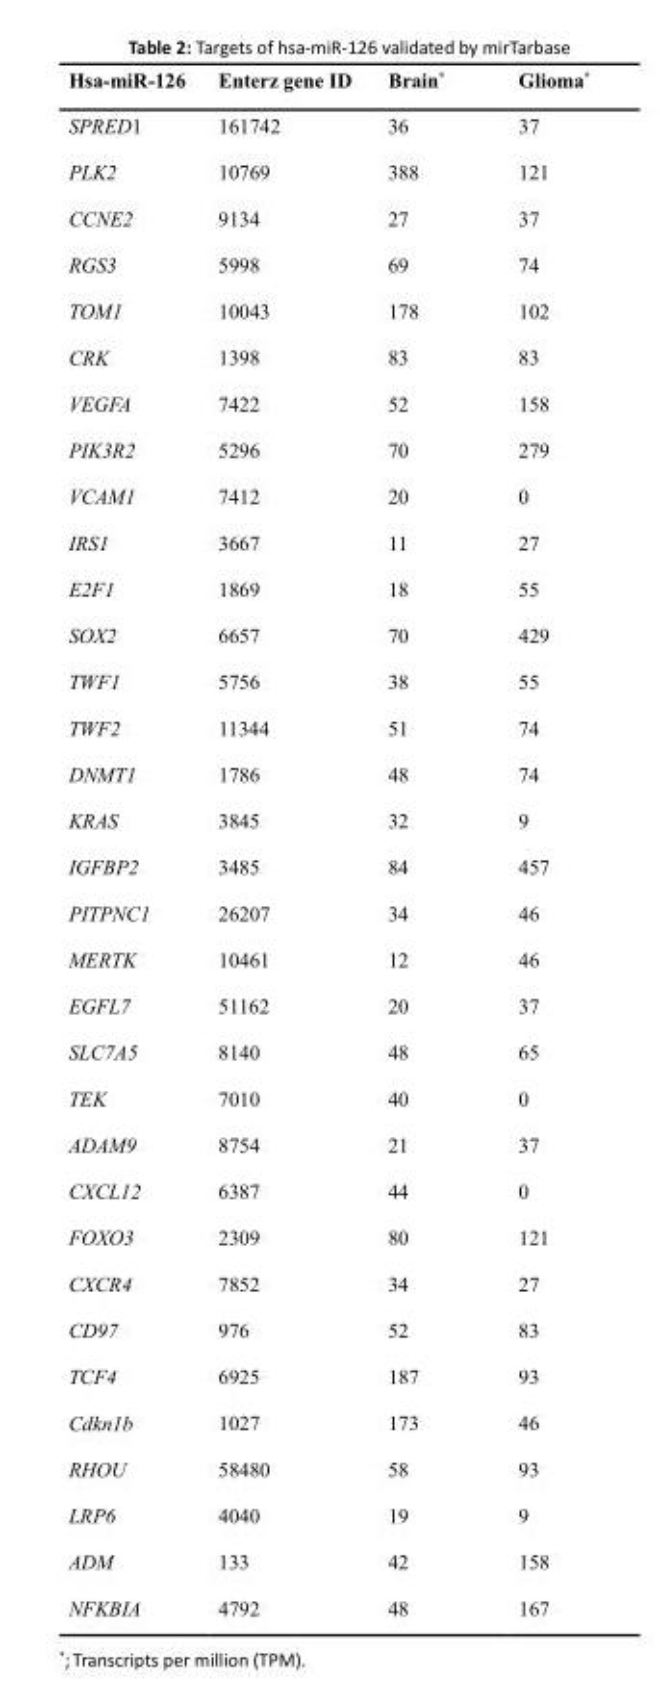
<table><thead><tr><td>Hsa-miR-126</td><td>Enterz gene ID</td><td>Brain*</td><td>Glioma*</td></tr></thead><tbody><tr><td>SPRED1</td><td>161742</td><td>36</td><td>37</td></tr><tr><td>PLK2</td><td>10769</td><td>388</td><td>121</td></tr><tr><td>CCNE2</td><td>9134</td><td>27</td><td>37</td></tr><tr><td>RGS3</td><td>5998</td><td>69</td><td>74</td></tr><tr><td>TOM1</td><td>10043</td><td>178</td><td>102</td></tr><tr><td>CRK</td><td>1398</td><td>83</td><td>83</td></tr><tr><td>VEGFA</td><td>7422</td><td>52</td><td>158</td></tr><tr><td>PIK3R2</td><td>5296</td><td>70</td><td>279</td></tr><tr><td>VCAM1</td><td>7412</td><td>20</td><td>0</td></tr><tr><td>IRS1</td><td>3667</td><td>11</td><td>27</td></tr><tr><td>E2F1</td><td>1869</td><td>18</td><td>55</td></tr><tr><td>SOX2</td><td>6657</td><td>70</td><td>429</td></tr><tr><td>TWF1</td><td>5756</td><td>38</td><td>55</td></tr><tr><td>TWF2</td><td>11344</td><td>51</td><td>74</td></tr><tr><td>DNMT1</td><td>1786</td><td>48</td><td>74</td></tr><tr><td>KRAS</td><td>3845</td><td>32</td><td>9</td></tr><tr><td>IGFBP2</td><td>3485</td><td>84</td><td>457</td></tr><tr><td>PITPNC1</td><td>26207</td><td>34</td><td>46</td></tr><tr><td>MERTK</td><td>10461</td><td>12</td><td>46</td></tr><tr><td>EGFL7</td><td>51162</td><td>20</td><td>37</td></tr><tr><td>SLC7A5</td><td>8140</td><td>48</td><td>65</td></tr><tr><td>TEK</td><td>7010</td><td>40</td><td>0</td></tr><tr><td>ADAM9</td><td>8754</td><td>21</td><td>37</td></tr><tr><td>CXCL12</td><td>6387</td><td>44</td><td>0</td></tr><tr><td>FOXO3</td><td>2309</td><td>80</td><td>121</td></tr><tr><td>CXCR4</td><td>7852</td><td>34</td><td>27</td></tr><tr><td>CD97</td><td>976</td><td>52</td><td>83</td></tr><tr><td>TCF4</td><td>6925</td><td>187</td><td>93</td></tr><tr><td>Cdkn1b</td><td>1027</td><td>173</td><td>46</td></tr><tr><td>RHOU</td><td>58480</td><td>58</td><td>93</td></tr><tr><td>LRP6</td><td>4040</td><td>19</td><td>9</td></tr><tr><td>ADM</td><td>133</td><td>42</td><td>158</td></tr><tr><td>NFKBIA</td><td>4792</td><td>48</td><td>167</td></tr></tbody></table>